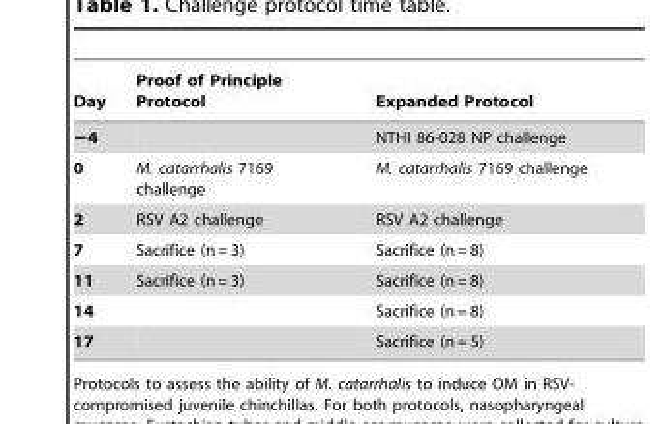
<table><thead><tr><td>Day</td><td>Proof of Principle Protocol</td><td>Expanded Protocol</td></tr></thead><tbody><tr><td>−4</td><td></td><td>NTHI 86-028 NP challenge</td></tr><tr><td>0</td><td>M. catarrhalis 7169 challenge</td><td>M. catarrhalis 7169 challenge</td></tr><tr><td>2</td><td>RSV A2 challenge</td><td>RSV A2 challenge</td></tr><tr><td>7</td><td>Sacrifice (n = 3)</td><td>Sacrifice (n = 8)</td></tr><tr><td>11</td><td>Sacrifice (n = 3)</td><td>Sacrifice (n = 8)</td></tr><tr><td>14</td><td></td><td>Sacrifice (n = 8)</td></tr><tr><td>17</td><td></td><td>Sacrifice (n = 5)</td></tr></tbody></table>